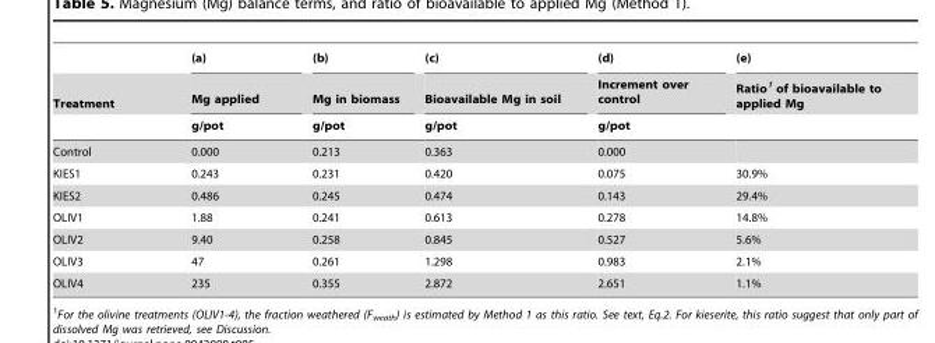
<table><thead><tr><td rowspan="3">Treatment</td><td rowspan="3">(a) Mg applied g/pot</td><td rowspan="3">(b) Mg in biomass g/pot</td><td rowspan="3">(c) Bioavailable Mg in soil g/pot</td><td rowspan="3">(d) Increment over control g/pot</td><td rowspan="3">(e) Ratio<sup>1</sup> of bioavailable to applied Mg</td></tr><tr></tr><tr></tr></thead><tbody><tr><td>Control</td><td>0.000</td><td>0.213</td><td>0.363</td><td>0.000</td><td></td></tr><tr><td>KIES1</td><td>0.243</td><td>0.231</td><td>0.420</td><td>0.075</td><td>30.9%</td></tr><tr><td>KIES2</td><td>0.486</td><td>0.245</td><td>0.474</td><td>0.143</td><td>29.4%</td></tr><tr><td>OLIV1</td><td>1.88</td><td>0.241</td><td>0.613</td><td>0.278</td><td>14.8%</td></tr><tr><td>OLIV2</td><td>9.40</td><td>0.258</td><td>0.845</td><td>0.527</td><td>5.6%</td></tr><tr><td>OLIV3</td><td>47</td><td>0.261</td><td>1.298</td><td>0.983</td><td>2.1%</td></tr><tr><td>OLIV4</td><td>235</td><td>0.355</td><td>2.872</td><td>2.651</td><td>1.1%</td></tr></tbody></table>